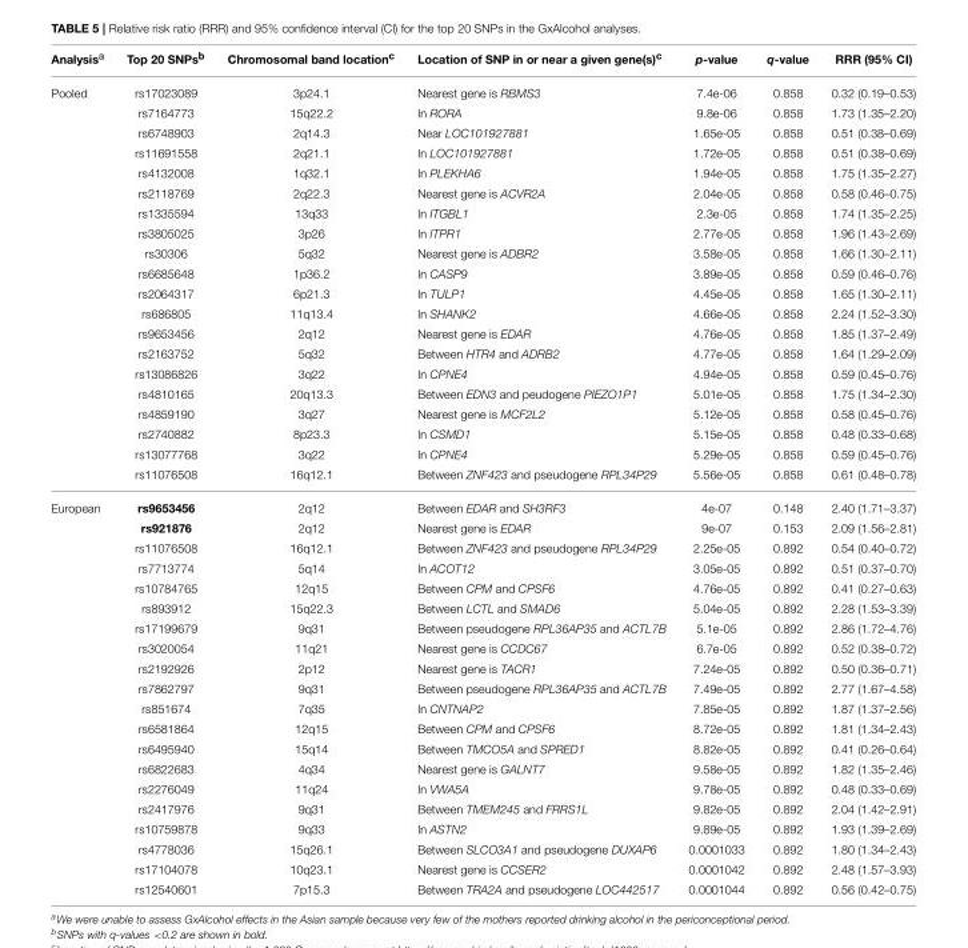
<table><thead><tr><td>Analysis<sup>a</sup></td><td>Top 20 SNPs<sup>b</sup></td><td>Chromosomal band location<sup>c</sup></td><td>Location of SNP in or near a given gene(s)<sup>c</sup></td><td>p-value</td><td>q-value</td><td>RRR (95% CI)</td></tr></thead><tbody><tr><td rowspan="20">Pooled</td><td>rs17023089</td><td>3p24.1</td><td>Nearest gene is RBMS3</td><td>7.4e-06</td><td>0.858</td><td>0.32 (0.19–0.53)</td></tr><tr><td>rs7164773</td><td>15q22.2</td><td>In RORA</td><td>9.8e-06</td><td>0.858</td><td>1.73 (1.35–2.20)</td></tr><tr><td>rs6748903</td><td>2q14.3</td><td>Near LOC101927881</td><td>1.65e-05</td><td>0.858</td><td>0.51 (0.38–0.69)</td></tr><tr><td>rs11691558</td><td>2q21.1</td><td>In LOC101927881</td><td>1.72e-05</td><td>0.858</td><td>0.51 (0.38–0.69)</td></tr><tr><td>rs4132008</td><td>1q32.1</td><td>In PLEKHA6</td><td>1.94e-05</td><td>0.858</td><td>1.75 (1.35–2.27)</td></tr><tr><td>rs2118769</td><td>2q22.3</td><td>Nearest gene is ACVR2A</td><td>2.04e-05</td><td>0.858</td><td>0.58 (0.46–0.75)</td></tr><tr><td>rs1335594</td><td>13q33</td><td>In ITGBL1</td><td>2.3e-05</td><td>0.858</td><td>1.74 (1.35–2.25)</td></tr><tr><td>rs3805025</td><td>3p26</td><td>In ITPR1</td><td>2.77e-05</td><td>0.858</td><td>1.96 (1.43–2.69)</td></tr><tr><td>rs30306</td><td>5q32</td><td>Nearest gene is ADBR2</td><td>3.58e-05</td><td>0.858</td><td>1.66 (1.30–2.11)</td></tr><tr><td>rs6685648</td><td>1p36.2</td><td>In CASP9</td><td>3.89e-05</td><td>0.858</td><td>0.59 (0.46–0.76)</td></tr><tr><td>rs2064317</td><td>6p21.3</td><td>In TULP1</td><td>4.45e-05</td><td>0.858</td><td>1.65 (1.30–2.11)</td></tr><tr><td>rs686805</td><td>11q13.4</td><td>In SHANK2</td><td>4.66e-05</td><td>0.858</td><td>2.24 (1.52–3.30)</td></tr><tr><td>rs9653456</td><td>2q12</td><td>Nearest gene is EDAR</td><td>4.76e-05</td><td>0.858</td><td>1.85 (1.37–2.49)</td></tr><tr><td>rs2163752</td><td>5q32</td><td>Between HTR4 and ADRB2</td><td>4.77e-05</td><td>0.858</td><td>1.64 (1.29–2.09)</td></tr><tr><td>rs13086826</td><td>3q22</td><td>In CPNE4</td><td>4.94e-05</td><td>0.858</td><td>0.59 (0.45–0.76)</td></tr><tr><td>rs4810165</td><td>20q13.3</td><td>Between EDN3 and peudogene PIEZO1P1</td><td>5.01e-05</td><td>0.858</td><td>1.75 (1.34–2.30)</td></tr><tr><td>rs4859190</td><td>3q27</td><td>Nearest gene is MCF2L2</td><td>5.12e-05</td><td>0.858</td><td>0.58 (0.45–0.76)</td></tr><tr><td>rs2740882</td><td>8p23.3</td><td>In CSMD1</td><td>5.15e-05</td><td>0.858</td><td>0.48 (0.33–0.68)</td></tr><tr><td>rs13077768</td><td>3q22</td><td>In CPNE4</td><td>5.29e-05</td><td>0.858</td><td>0.59 (0.45–0.76)</td></tr><tr><td>rs11076508</td><td>16q12.1</td><td>Between ZNF423 and pseudogene RPL34P29</td><td>5.56e-05</td><td>0.858</td><td>0.61 (0.48–0.78)</td></tr><tr><td rowspan="20">European</td><td>rs9653456</td><td>2q12</td><td>Between EDAR and SH3RF3</td><td>4e-07</td><td>0.148</td><td>2.40 (1.71–3.37)</td></tr><tr><td>rs921876</td><td>2q12</td><td>Nearest gene is EDAR</td><td>9e-07</td><td>0.153</td><td>2.09 (1.56–2.81)</td></tr><tr><td>rs11076508</td><td>16q12.1</td><td>Between ZNF423 and pseudogene RPL34P29</td><td>2.25e-05</td><td>0.892</td><td>0.54 (0.40–0.72)</td></tr><tr><td>rs7713774</td><td>5q14</td><td>In ACOT12</td><td>3.05e-05</td><td>0.892</td><td>0.51 (0.37–0.70)</td></tr><tr><td>rs10784765</td><td>12q15</td><td>Between CPM and CPSF6</td><td>4.76e-05</td><td>0.892</td><td>0.41 (0.27–0.63)</td></tr><tr><td>rs893912</td><td>15q22.3</td><td>Between LCTL and SMAD6</td><td>5.04e-05</td><td>0.892</td><td>2.28 (1.53–3.39)</td></tr><tr><td>rs17199679</td><td>9q31</td><td>Between pseudogene RPL36AP35 and ACTL7B</td><td>5.1e-05</td><td>0.892</td><td>2.86 (1.72–4.76)</td></tr><tr><td>rs3020054</td><td>11q21</td><td>Nearest gene is CCDC67</td><td>6.7e-05</td><td>0.892</td><td>0.52 (0.38–0.72)</td></tr><tr><td>rs2192926</td><td>2p12</td><td>Nearest gene is TACR1</td><td>7.24e-05</td><td>0.892</td><td>0.50 (0.36–0.71)</td></tr><tr><td>rs7862797</td><td>9q31</td><td>Between pseudogene RPL36AP35 and ACTL7B</td><td>7.49e-05</td><td>0.892</td><td>2.77 (1.67–4.58)</td></tr><tr><td>rs851674</td><td>7q35</td><td>In CNTNAP2</td><td>7.85e-05</td><td>0.892</td><td>1.87 (1.37–2.56)</td></tr><tr><td>rs6581864</td><td>12q15</td><td>Between CPM and CPSF6</td><td>8.72e-05</td><td>0.892</td><td>1.81 (1.34–2.43)</td></tr><tr><td>rs6495940</td><td>15q14</td><td>Between TMCO5A and SPRED1</td><td>8.82e-05</td><td>0.892</td><td>0.41 (0.26–0.64)</td></tr><tr><td>rs6822683</td><td>4q34</td><td>Nearest gene is GALNT7</td><td>9.58e-05</td><td>0.892</td><td>1.82 (1.35–2.46)</td></tr><tr><td>rs2276049</td><td>11q24</td><td>In VWA5A</td><td>9.78e-05</td><td>0.892</td><td>0.48 (0.33–0.69)</td></tr><tr><td>rs2417976</td><td>9q31</td><td>Between TMEM245 and FRRS1L</td><td>9.82e-05</td><td>0.892</td><td>2.04 (1.42–2.91)</td></tr><tr><td>rs10759878</td><td>9q33</td><td>In ASTN2</td><td>9.89e-05</td><td>0.892</td><td>1.93 (1.39–2.69)</td></tr><tr><td>rs4778036</td><td>15q26.1</td><td>Between SLCO3A1 and pseudogene DUXAP6</td><td>0.0001033</td><td>0.892</td><td>1.80 (1.34–2.43)</td></tr><tr><td>rs17104078</td><td>10q23.1</td><td>Nearest gene is CCSER2</td><td>0.0001042</td><td>0.892</td><td>2.48 (1.57–3.93)</td></tr><tr><td>rs12540601</td><td>7p15.3</td><td>Between TRA2A and pseudogene LOC442517</td><td>0.0001044</td><td>0.892</td><td>0.56 (0.42–0.75)</td></tr></tbody></table>